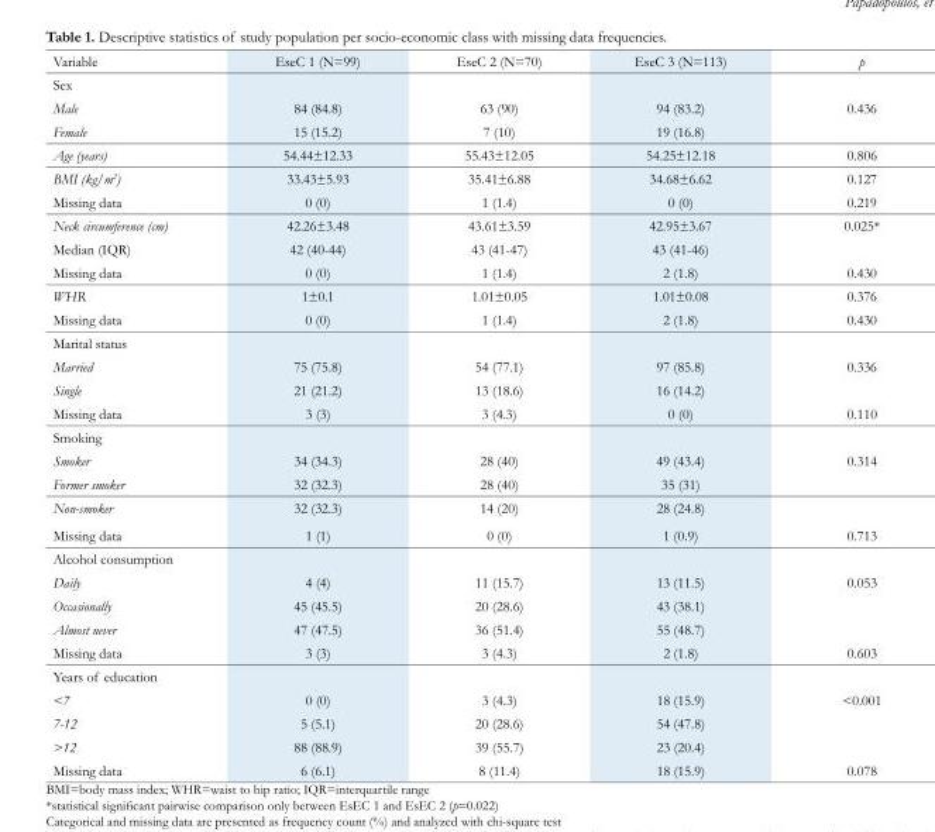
<table><thead><tr><td>Variable</td><td>EseC 1 (Ν=99)</td><td>EseC 2 (Ν=70)</td><td>EseC 3 (Ν=113)</td><td>p</td></tr></thead><tbody><tr><td colspan="5">Sex</td></tr><tr><td>Male</td><td>84 (84.8)</td><td>63 (90)</td><td>94 (83.2)</td><td>0.436</td></tr><tr><td>Female</td><td>15 (15.2)</td><td>7 (10)</td><td>19 (16.8)</td><td></td></tr><tr><td>Age (years)</td><td>54.44±12.33</td><td>55.43±12.05</td><td>54.25±12.18</td><td>0.806</td></tr><tr><td>ΒΜΙ (kg/m2)</td><td>33.43±5.93</td><td>35.41±6.88</td><td>34.68±6.62</td><td>0.127</td></tr><tr><td>Missing data</td><td>0 (0)</td><td>1 (1.4)</td><td>0 (0)</td><td>0.219</td></tr><tr><td>Neck circumference (cm)</td><td>42.26±3.48</td><td>43.61±3.59</td><td>42.95±3.67</td><td>0.025*</td></tr><tr><td>Median (IQR)</td><td>42 (40-44)</td><td>43 (41-47)</td><td>43 (41-46)</td><td></td></tr><tr><td>Missing data</td><td>0 (0)</td><td>1 (1.4)</td><td>2 (1.8)</td><td>0.430</td></tr><tr><td>WHR</td><td>1±0.1</td><td>1.01±0.05</td><td>1.01±0.08</td><td>0.376</td></tr><tr><td>Missing data</td><td>0 (0)</td><td>1 (1.4)</td><td>2 (1.8)</td><td>0.430</td></tr><tr><td colspan="5">Marital status</td></tr><tr><td>Married</td><td>75 (75.8)</td><td>54 (77.1)</td><td>97 (85.8)</td><td>0.336</td></tr><tr><td>Single</td><td>21 (21.2)</td><td>13 (18.6)</td><td>16 (14.2)</td><td></td></tr><tr><td>Missing data</td><td>3 (3)</td><td>3 (4.3)</td><td>0 (0)</td><td>0.110</td></tr><tr><td colspan="5">Smoking</td></tr><tr><td>Smoker</td><td>34 (34.3)</td><td>28 (40)</td><td>49 (43.4)</td><td>0.314</td></tr><tr><td>Former smoker</td><td>32 (32.3)</td><td>28 (40)</td><td>35 (31)</td><td></td></tr><tr><td>Non-smoker</td><td>32 (32.3)</td><td>14 (20)</td><td>28 (24.8)</td><td></td></tr><tr><td>Missing data</td><td>1 (1)</td><td>0 (0)</td><td>1 (0.9)</td><td>0.713</td></tr><tr><td colspan="5">Alcohol consumption</td></tr><tr><td>Daily</td><td>4 (4)</td><td>11 (15.7)</td><td>13 (11.5)</td><td>0.053</td></tr><tr><td>Occasionally</td><td>45 (45.5)</td><td>20 (28.6)</td><td>43 (38.1)</td><td></td></tr><tr><td>Almost never</td><td>47 (47.5)</td><td>36 (51.4)</td><td>55 (48.7)</td><td></td></tr><tr><td>Missing data</td><td>3 (3)</td><td>3 (4.3)</td><td>2 (1.8)</td><td>0.603</td></tr><tr><td colspan="5">Years of education</td></tr><tr><td>&lt;7</td><td>0 (0)</td><td>3 (4.3)</td><td>18 (15.9)</td><td>&lt;0.001</td></tr><tr><td>7-12</td><td>5 (5.1)</td><td>20 (28.6)</td><td>54 (47.8)</td><td></td></tr><tr><td>&gt;12</td><td>88 (88.9)</td><td>39 (55.7)</td><td>23 (20.4)</td><td></td></tr><tr><td>Missing data</td><td>6 (6.1)</td><td>8 (11.4)</td><td>18 (15.9)</td><td>0.078</td></tr></tbody></table>